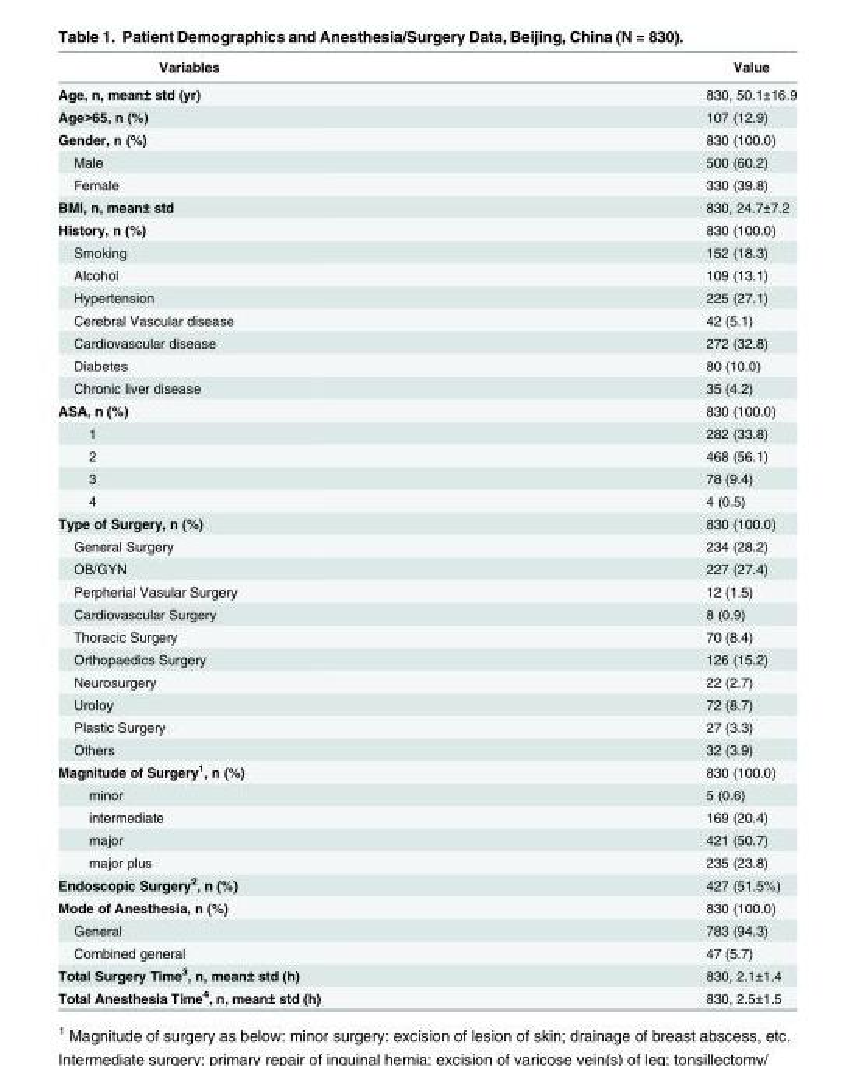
<table><thead><tr><td>Variables</td><td>Value</td></tr></thead><tbody><tr><td>Age, n, mean± std (yr)</td><td>830, 50.1±16.9</td></tr><tr><td>Age&gt;65, n (%)</td><td>107 (12.9)</td></tr><tr><td>Gender, n (%)</td><td>830 (100.0)</td></tr><tr><td>Male</td><td>500 (60.2)</td></tr><tr><td>Female</td><td>330 (39.8)</td></tr><tr><td>BMI, n, mean± std</td><td>830, 24.7±7.2</td></tr><tr><td>History, n (%)</td><td>830 (100.0)</td></tr><tr><td>Smoking</td><td>152 (18.3)</td></tr><tr><td>Alcohol</td><td>109 (13.1)</td></tr><tr><td>Hypertension</td><td>225 (27.1)</td></tr><tr><td>Cerebral Vascular disease</td><td>42 (5.1)</td></tr><tr><td>Cardiovascular disease</td><td>272 (32.8)</td></tr><tr><td>Diabetes</td><td>80 (10.0)</td></tr><tr><td>Chronic liver disease</td><td>35 (4.2)</td></tr><tr><td>ASA, n (%)</td><td>830 (100.0)</td></tr><tr><td>1</td><td>282 (33.8)</td></tr><tr><td>2</td><td>468 (56.1)</td></tr><tr><td>3</td><td>78 (9.4)</td></tr><tr><td>4</td><td>4 (0.5)</td></tr><tr><td>Type of Surgery, n (%)</td><td>830 (100.0)</td></tr><tr><td>General Surgery</td><td>234 (28.2)</td></tr><tr><td>OB/GYN</td><td>227 (27.4)</td></tr><tr><td>Perpherial Vasular Surgery</td><td>12 (1.5)</td></tr><tr><td>Cardiovascular Surgery</td><td>8 (0.9)</td></tr><tr><td>Thoracic Surgery</td><td>70 (8.4)</td></tr><tr><td>Orthopaedics Surgery</td><td>126 (15.2)</td></tr><tr><td>Neurosurgery</td><td>22 (2.7)</td></tr><tr><td>Uroloy</td><td>72 (8.7)</td></tr><tr><td>Plastic Surgery</td><td>27 (3.3)</td></tr><tr><td>Others</td><td>32 (3.9)</td></tr><tr><td>Magnitude of Surgery<sup>1</sup>, n (%)</td><td>830 (100.0)</td></tr><tr><td>minor</td><td>5 (0.6)</td></tr><tr><td>intermediate</td><td>169 (20.4)</td></tr><tr><td>major</td><td>421 (50.7)</td></tr><tr><td>major plus</td><td>235 (23.8)</td></tr><tr><td>Endoscopic Surgery<sup>2</sup>, n (%)</td><td>427 (51.5%)</td></tr><tr><td>Mode of Anesthesia, n (%)</td><td>830 (100.0)</td></tr><tr><td>General</td><td>783 (94.3)</td></tr><tr><td>Combined general</td><td>47 (5.7)</td></tr><tr><td>Total Surgery Time<sup>3</sup>, n, mean± std (h)</td><td>830, 2.1±1.4</td></tr><tr><td>Total Anesthesia Time<sup>4</sup>, n, mean± std (h)</td><td>830, 2.5±1.5</td></tr></tbody></table>